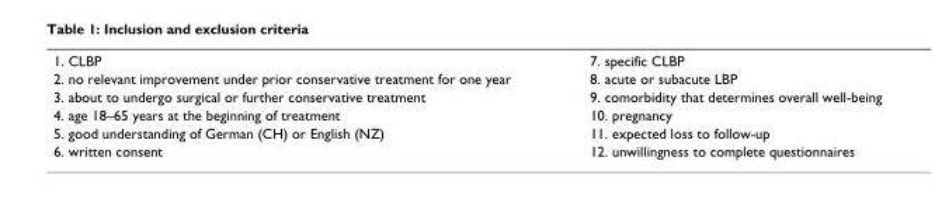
<table><tbody><tr><td>1. CLBP</td><td>7. specific CLBP</td></tr><tr><td>2. no relevant improvement under prior conservative treatment for one year</td><td>8. acute or subacute LBP</td></tr><tr><td>3. about to undergo surgical or further conservative treatment</td><td>9. comorbidity that determines overall well-being</td></tr><tr><td>4. age 18–65 years at the beginning of treatment</td><td>10. pregnancy</td></tr><tr><td>5. good understanding of German (CH) or English (NZ)</td><td>11. expected loss to follow-up</td></tr><tr><td>6. written consent</td><td>12. unwillingness to complete questionnaires</td></tr></tbody></table>